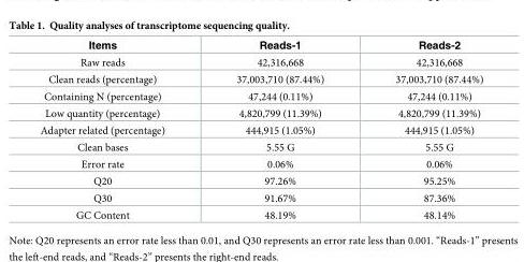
<table><thead><tr><td>Items</td><td>Reads-1</td><td>Reads-2</td></tr></thead><tbody><tr><td>Raw reads</td><td>42,316,668</td><td>42,316,668</td></tr><tr><td>Clean reads (percentage)</td><td>37,003,710 (87.44%)</td><td>37,003,710 (87.44%)</td></tr><tr><td>Containing N (percentage)</td><td>47,244 (0.11%)</td><td>47,244 (0.11%)</td></tr><tr><td>Low quantity (percentage)</td><td>4,820,799 (11.39%)</td><td>4,820,799 (11.39%)</td></tr><tr><td>Adapter related (percentage)</td><td>444,915 (1.05%)</td><td>444,915 (1.05%)</td></tr><tr><td>Clean bases</td><td>5.55 G</td><td>5.55 G</td></tr><tr><td>Error rate</td><td>0.06%</td><td>0.06%</td></tr><tr><td>Q20</td><td>97.26%</td><td>95.25%</td></tr><tr><td>Q30</td><td>91.67%</td><td>87.36%</td></tr><tr><td>GC Content</td><td>48.19%</td><td>48.14%</td></tr></tbody></table>